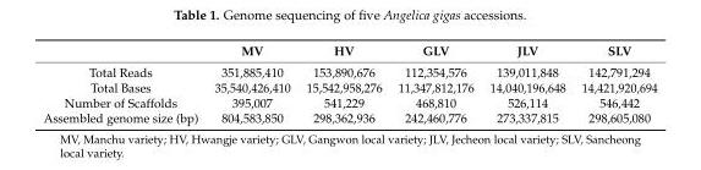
<table><thead><tr><td></td><td>MV</td><td>HV</td><td>GLV</td><td>JLV</td><td>SLV</td></tr></thead><tbody><tr><td>Total Reads</td><td>351,885,410</td><td>153,890,676</td><td>112,354,576</td><td>139,011,848</td><td>142,791,294</td></tr><tr><td>Total Bases</td><td>35,540,426,410</td><td>15,542,958,276</td><td>11,347,812,176</td><td>14,040,196,648</td><td>14,421,920,694</td></tr><tr><td>Number of Scaffolds</td><td>395,007</td><td>541,229</td><td>468,810</td><td>526,114</td><td>546,442</td></tr><tr><td>Assembled genome size (bp)</td><td>804,583,850</td><td>298,362,936</td><td>242,460,776</td><td>273,337,815</td><td>298,605,080</td></tr></tbody></table>